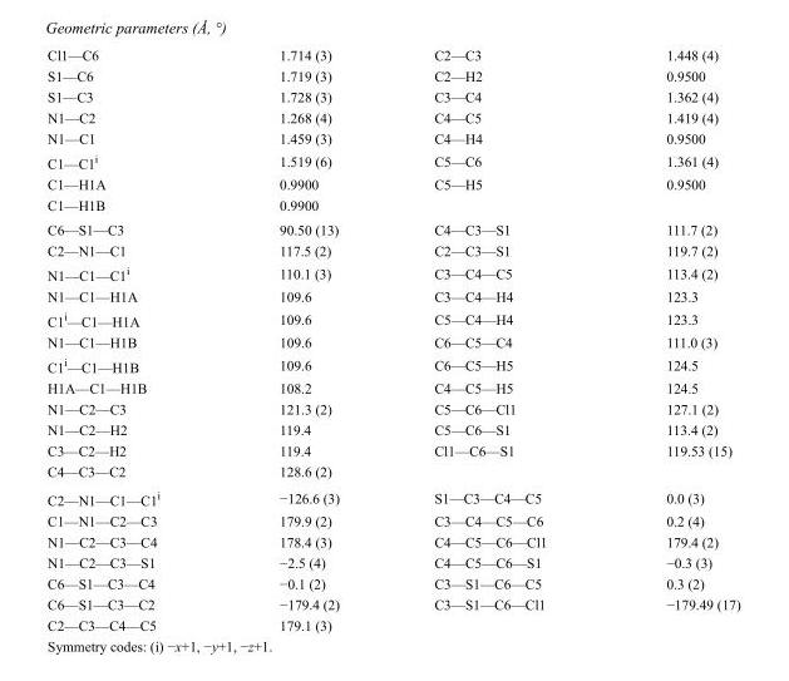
<table><tbody><tr><td>Cl1—C6</td><td>1.714 (3)</td><td>C2—C3</td><td>1.448 (4)</td></tr><tr><td>S1—C6</td><td>1.719 (3)</td><td>C2—H2</td><td>0.9500</td></tr><tr><td>S1—C3</td><td>1.728 (3)</td><td>C3—C4</td><td>1.362 (4)</td></tr><tr><td>N1—C2</td><td>1.268 (4)</td><td>C4—C5</td><td>1.419 (4)</td></tr><tr><td>N1—C1</td><td>1.459 (3)</td><td>C4—H4</td><td>0.9500</td></tr><tr><td>C1—C1<sup>i</sup></td><td>1.519 (6)</td><td>C5—C6</td><td>1.361 (4)</td></tr><tr><td>C1—H1A</td><td>0.9900</td><td>C5—H5</td><td>0.9500</td></tr><tr><td>C1—H1B</td><td>0.9900</td><td></td><td></td></tr><tr><td>C6—S1—C3</td><td>90.50 (13)</td><td>C4—C3—S1</td><td>111.7 (2)</td></tr><tr><td>C2—N1—C1</td><td>117.5 (2)</td><td>C2—C3—S1</td><td>119.7 (2)</td></tr><tr><td>N1—C1—C1<sup>i</sup></td><td>110.1 (3)</td><td>C3—C4—C5</td><td>113.4 (2)</td></tr><tr><td>N1—C1—H1A</td><td>109.6</td><td>C3—C4—H4</td><td>123.3</td></tr><tr><td>C1<sup>i</sup>—C1—H1A</td><td>109.6</td><td>C5—C4—H4</td><td>123.3</td></tr><tr><td>N1—C1—H1B</td><td>109.6</td><td>C6—C5—C4</td><td>111.0 (3)</td></tr><tr><td>C1<sup>i</sup>—C1—H1B</td><td>109.6</td><td>C6—C5—H5</td><td>124.5</td></tr><tr><td>H1A—C1—H1B</td><td>108.2</td><td>C4—C5—H5</td><td>124.5</td></tr><tr><td>N1—C2—C3</td><td>121.3 (2)</td><td>C5—C6—Cl1</td><td>127.1 (2)</td></tr><tr><td>N1—C2—H2</td><td>119.4</td><td>C5—C6—S1</td><td>113.4 (2)</td></tr><tr><td>C3—C2—H2</td><td>119.4</td><td>Cl1—C6—S1</td><td>119.53 (15)</td></tr><tr><td>C4—C3—C2</td><td>128.6 (2)</td><td></td><td></td></tr><tr><td>C2—N1—C1—C1<sup>i</sup></td><td>−126.6 (3)</td><td>S1—C3—C4—C5</td><td>0.0 (3)</td></tr><tr><td>C1—N1—C2—C3</td><td>179.9 (2)</td><td>C3—C4—C5—C6</td><td>0.2 (4)</td></tr><tr><td>N1—C2—C3—C4</td><td>178.4 (3)</td><td>C4—C5—C6—Cl1</td><td>179.4 (2)</td></tr><tr><td>N1—C2—C3—S1</td><td>−2.5 (4)</td><td>C4—C5—C6—S1</td><td>−0.3 (3)</td></tr><tr><td>C6—S1—C3—C4</td><td>−0.1 (2)</td><td>C3—S1—C6—C5</td><td>0.3 (2)</td></tr><tr><td>C6—S1—C3—C2</td><td>−179.4 (2)</td><td>C3—S1—C6—Cl1</td><td>−179.49 (17)</td></tr><tr><td>C2—C3—C4—C5</td><td>179.1 (3)</td><td></td><td></td></tr></tbody></table>